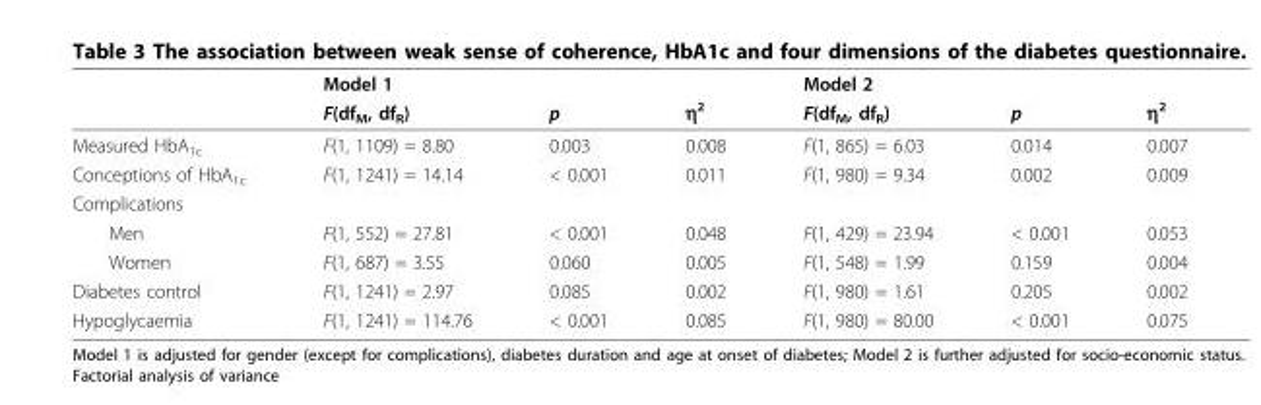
<table><thead><tr><td rowspan="2"></td><td rowspan="2">Model 1 F(df<sub>M</sub>, df<sub>R</sub>)</td><td rowspan="2">p</td><td rowspan="2">η<sup>2</sup></td><td rowspan="2">Model 2 F(df<sub>M</sub>, df<sub>R</sub>)</td><td rowspan="2">p</td><td rowspan="2">η<sup>2</sup></td></tr><tr></tr></thead><tbody><tr><td>Measured HbA<sub>1c</sub></td><td>F(1, 1109) = 8.80</td><td>0.003</td><td>0.008</td><td>F(1, 865) = 6.03</td><td>0.014</td><td>0.007</td></tr><tr><td>Conceptions of HbA<sub>1c</sub></td><td>F(1, 1241) = 14.14</td><td>&lt; 0.001</td><td>0.011</td><td>F(1, 980) = 9.34</td><td>0.002</td><td>0.009</td></tr><tr><td colspan="7">Complications</td></tr><tr><td>Men</td><td>F(1, 552) = 27.81</td><td>&lt; 0.001</td><td>0.048</td><td>F(1, 429) = 23.94</td><td>&lt; 0.001</td><td>0.053</td></tr><tr><td>Women</td><td>F(1, 687) = 3.55</td><td>0.060</td><td>0.005</td><td>F(1, 548) = 1.99</td><td>0.159</td><td>0.004</td></tr><tr><td>Diabetes control</td><td>F(1, 1241) = 2.97</td><td>0.085</td><td>0.002</td><td>F(1, 980) = 1.61</td><td>0.205</td><td>0.002</td></tr><tr><td>Hypoglycaemia</td><td>F(1, 1241) = 114.76</td><td>&lt; 0.001</td><td>0.085</td><td>F(1, 980) = 80.00</td><td>&lt; 0.001</td><td>0.075</td></tr></tbody></table>